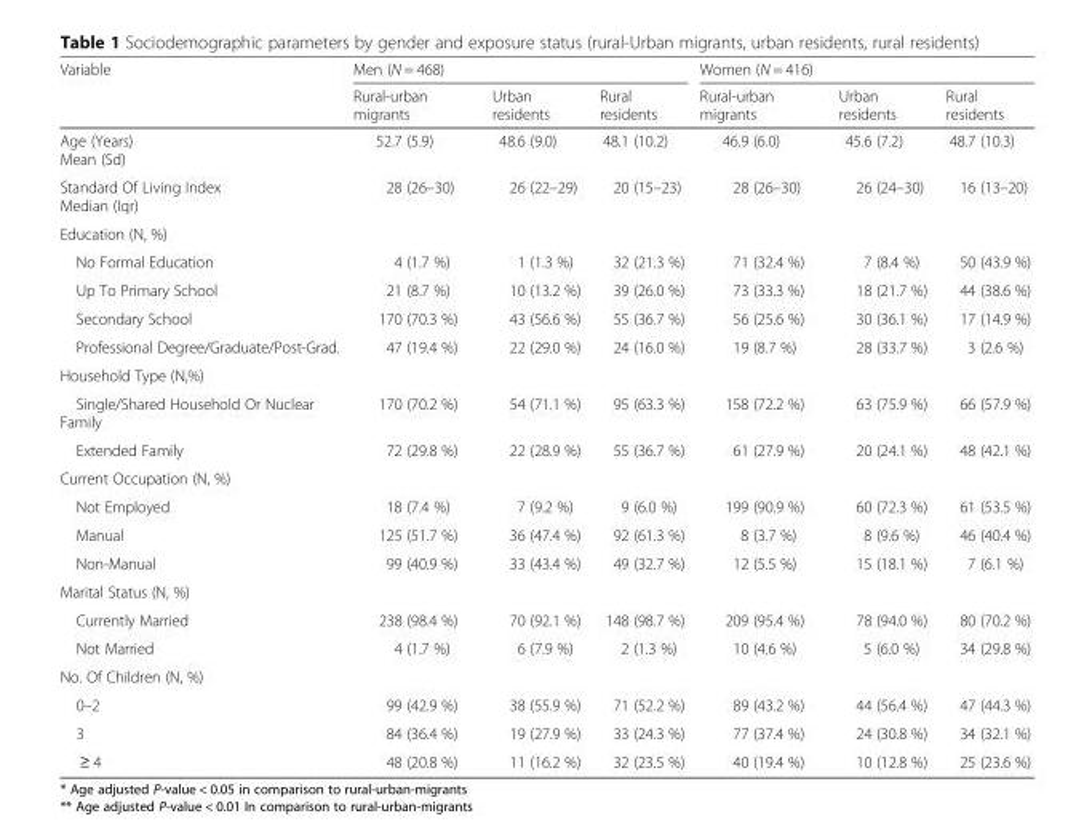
<table><thead><tr><td rowspan="2">Variable</td><td colspan="3">Men (N = 468)</td><td colspan="3">Women (N = 416)</td></tr><tr><td>Rural-urban migrants</td><td>Urban residents</td><td>Rural residents</td><td>Rural-urban migrants</td><td>Urban residents</td><td>Rural residents</td></tr></thead><tbody><tr><td>Age (Years) Mean (Sd)</td><td>52.7 (5.9)</td><td>48.6 (9.0)</td><td>48.1 (10.2)</td><td>46.9 (6.0)</td><td>45.6 (7.2)</td><td>48.7 (10.3)</td></tr><tr><td>Standard Of Living Index Median (Iqr)</td><td>28 (26–30)</td><td>26 (22–29)</td><td>20 (15–23)</td><td>28 (26–30)</td><td>26 (24–30)</td><td>16 (13–20)</td></tr><tr><td colspan="7">Education (N, %)</td></tr><tr><td>No Formal Education</td><td>4 (1.7 %)</td><td>1 (1.3 %)</td><td>32 (21.3 %)</td><td>71 (32.4 %)</td><td>7 (8.4 %)</td><td>50 (43.9 %)</td></tr><tr><td>Up To Primary School</td><td>21 (8.7 %)</td><td>10 (13.2 %)</td><td>39 (26.0 %)</td><td>73 (33.3 %)</td><td>18 (21.7 %)</td><td>44 (38.6 %)</td></tr><tr><td>Secondary School</td><td>170 (70.3 %)</td><td>43 (56.6 %)</td><td>55 (36.7 %)</td><td>56 (25.6 %)</td><td>30 (36.1 %)</td><td>17 (14.9 %)</td></tr><tr><td>Professional Degree/Graduate/Post-Grad.</td><td>47 (19.4 %)</td><td>22 (29.0 %)</td><td>24 (16.0 %)</td><td>19 (8.7 %)</td><td>28 (33.7 %)</td><td>3 (2.6 %)</td></tr><tr><td colspan="7">Household Type (N,%)</td></tr><tr><td>Single/Shared Household Or Nuclear Family</td><td>170 (70.2 %)</td><td>54 (71.1 %)</td><td>95 (63.3 %)</td><td>158 (72.2 %)</td><td>63 (75.9 %)</td><td>66 (57.9 %)</td></tr><tr><td>Extended Family</td><td>72 (29.8 %)</td><td>22 (28.9 %)</td><td>55 (36.7 %)</td><td>61 (27.9 %)</td><td>20 (24.1 %)</td><td>48 (42.1 %)</td></tr><tr><td colspan="7">Current Occupation (N, %)</td></tr><tr><td>Not Employed</td><td>18 (7.4 %)</td><td>7 (9.2 %)</td><td>9 (6.0 %)</td><td>199 (90.9 %)</td><td>60 (72.3 %)</td><td>61 (53.5 %)</td></tr><tr><td>Manual</td><td>125 (51.7 %)</td><td>36 (47.4 %)</td><td>92 (61.3 %)</td><td>8 (3.7 %)</td><td>8 (9.6 %)</td><td>46 (40.4 %)</td></tr><tr><td>Non-Manual</td><td>99 (40.9 %)</td><td>33 (43.4 %)</td><td>49 (32.7 %)</td><td>12 (5.5 %)</td><td>15 (18.1 %)</td><td>7 (6.1 %)</td></tr><tr><td colspan="7">Marital Status (N, %)</td></tr><tr><td>Currently Married</td><td>238 (98.4 %)</td><td>70 (92.1 %)</td><td>148 (98.7 %)</td><td>209 (95.4 %)</td><td>78 (94.0 %)</td><td>80 (70.2 %)</td></tr><tr><td>Not Married</td><td>4 (1.7 %)</td><td>6 (7.9 %)</td><td>2 (1.3 %)</td><td>10 (4.6 %)</td><td>5 (6.0 %)</td><td>34 (29.8 %)</td></tr><tr><td colspan="7">No. Of Children (N, %)</td></tr><tr><td>0–2</td><td>99 (42.9 %)</td><td>38 (55.9 %)</td><td>71 (52.2 %)</td><td>89 (43.2 %)</td><td>44 (56.4 %)</td><td>47 (44.3 %)</td></tr><tr><td>3</td><td>84 (36.4 %)</td><td>19 (27.9 %)</td><td>33 (24.3 %)</td><td>77 (37.4 %)</td><td>24 (30.8 %)</td><td>34 (32.1 %)</td></tr><tr><td>≥ 4</td><td>48 (20.8 %)</td><td>11 (16.2 %)</td><td>32 (23.5 %)</td><td>40 (19.4 %)</td><td>10 (12.8 %)</td><td>25 (23.6 %)</td></tr></tbody></table>